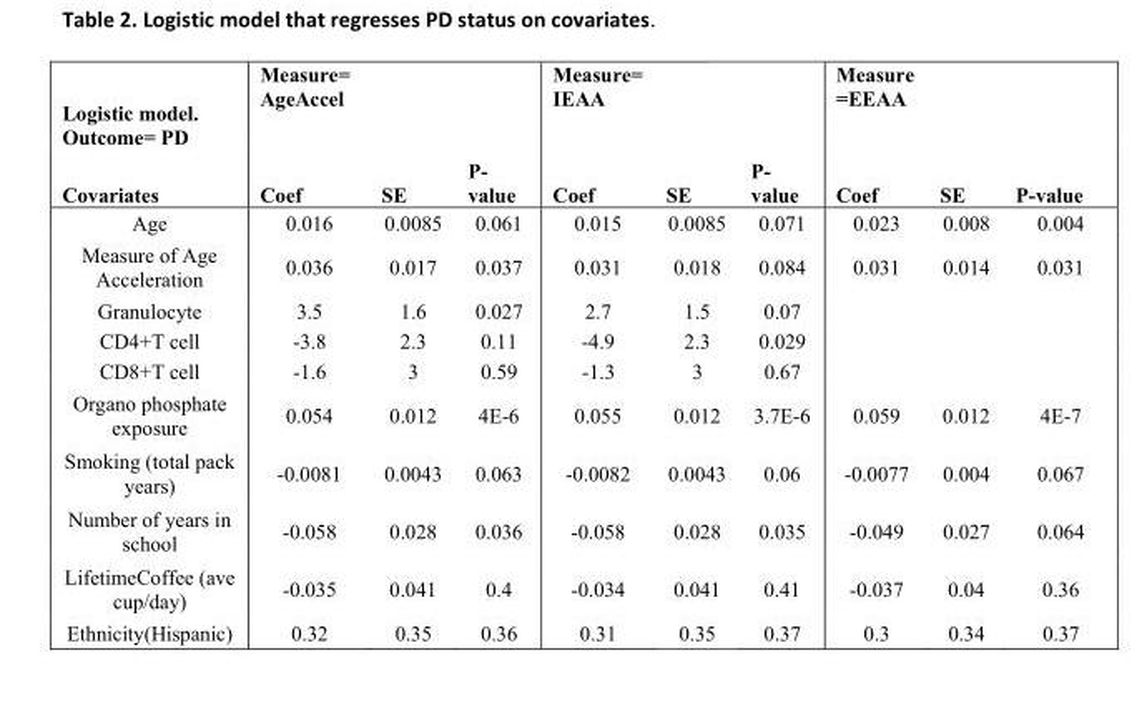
<table><thead><tr><td rowspan="2">Logistic model. Outcome= PD Covariates</td><td colspan="3">Measure= AgeAccel</td><td colspan="3">Measure= IEAA</td><td colspan="3">Measure =EEAA</td></tr><tr><td>Coef</td><td>SE</td><td>P- value</td><td>Coef</td><td>SE</td><td>P- value</td><td>Coef</td><td>SE</td><td>P-value</td></tr></thead><tbody><tr><td>Age</td><td>0.016</td><td>0.0085</td><td>0.061</td><td>0.015</td><td>0.0085</td><td>0.071</td><td>0.023</td><td>0.008</td><td>0.004</td></tr><tr><td>Measure of Age Acceleration</td><td>0.036</td><td>0.017</td><td>0.037</td><td>0.031</td><td>0.018</td><td>0.084</td><td>0.031</td><td>0.014</td><td>0.031</td></tr><tr><td>Granulocyte</td><td>3.5</td><td>1.6</td><td>0.027</td><td>2.7</td><td>1.5</td><td>0.07</td><td></td><td></td><td></td></tr><tr><td>CD4+T cell</td><td>-3.8</td><td>2.3</td><td>0.11</td><td>-4.9</td><td>2.3</td><td>0.029</td><td></td><td></td><td></td></tr><tr><td>CD8+T cell</td><td>-1.6</td><td>3</td><td>0.59</td><td>-1.3</td><td>3</td><td>0.67</td><td></td><td></td><td></td></tr><tr><td>Organo phosphate exposure</td><td>0.054</td><td>0.012</td><td>4E-6</td><td>0.055</td><td>0.012</td><td>3.7E-6</td><td>0.059</td><td>0.012</td><td>4E-7</td></tr><tr><td>Smoking (total pack years)</td><td>-0.0081</td><td>0.0043</td><td>0.063</td><td>-0.0082</td><td>0.0043</td><td>0.06</td><td>-0.0077</td><td>0.004</td><td>0.067</td></tr><tr><td>Number of years in school</td><td>-0.058</td><td>0.028</td><td>0.036</td><td>-0.058</td><td>0.028</td><td>0.035</td><td>-0.049</td><td>0.027</td><td>0.064</td></tr><tr><td>LifetimeCoffee (ave cup/day)</td><td>-0.035</td><td>0.041</td><td>0.4</td><td>-0.034</td><td>0.041</td><td>0.41</td><td>-0.037</td><td>0.04</td><td>0.36</td></tr><tr><td>Ethnicity(Hispanic)</td><td>0.32</td><td>0.35</td><td>0.36</td><td>0.31</td><td>0.35</td><td>0.37</td><td>0.3</td><td>0.34</td><td>0.37</td></tr></tbody></table>